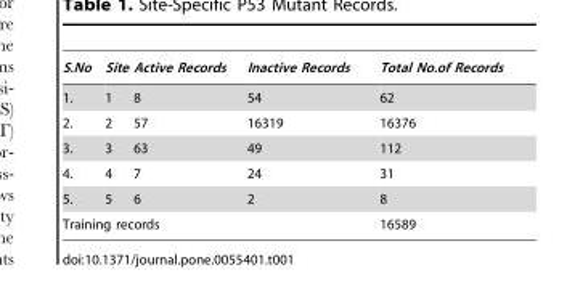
<table><thead><tr><td>S.No</td><td>Site</td><td>Active Records</td><td>Inactive Records</td><td>Total No.of Records</td></tr></thead><tbody><tr><td>1.</td><td>1</td><td>8</td><td>54</td><td>62</td></tr><tr><td>2.</td><td>2</td><td>57</td><td>16319</td><td>16376</td></tr><tr><td>3.</td><td>3</td><td>63</td><td>49</td><td>112</td></tr><tr><td>4.</td><td>4</td><td>7</td><td>24</td><td>31</td></tr><tr><td>5.</td><td>5</td><td>6</td><td>2</td><td>8</td></tr><tr><td colspan="4">Training records</td><td>16589</td></tr></tbody></table>